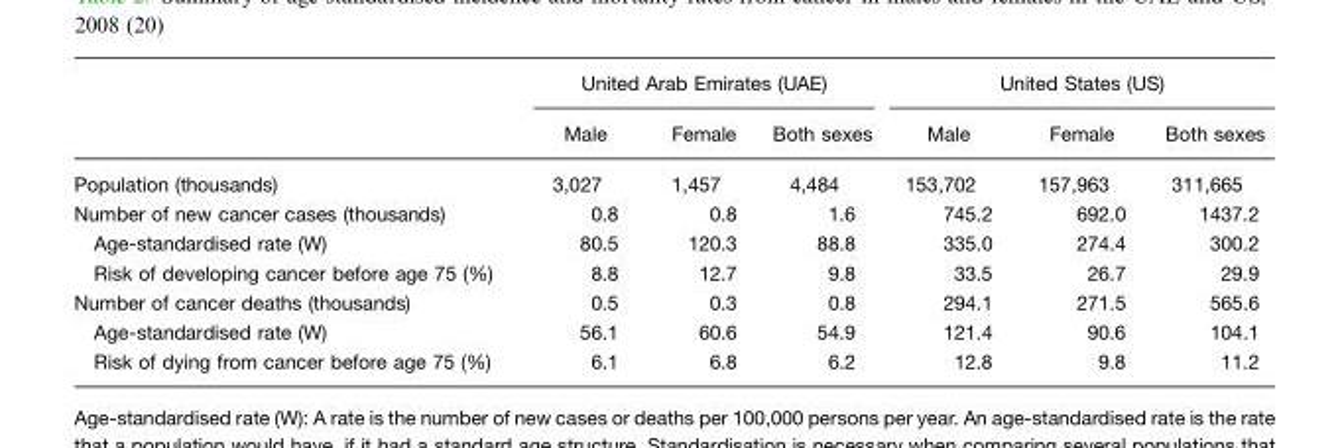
<table><thead><tr><td rowspan="2"></td><td colspan="3">United Arab Emirates (UAE)</td><td colspan="3">United States (US)</td></tr><tr><td>Male</td><td>Female</td><td>Both sexes</td><td>Male</td><td>Female</td><td>Both sexes</td></tr></thead><tbody><tr><td>Population (thousands)</td><td>3,027</td><td>1,457</td><td>4,484</td><td>153,702</td><td>157,963</td><td>311,665</td></tr><tr><td>Number of new cancer cases (thousands)</td><td>0.8</td><td>0.8</td><td>1.6</td><td>745.2</td><td>692.0</td><td>1437.2</td></tr><tr><td>Age-standardised rate (W)</td><td>80.5</td><td>120.3</td><td>88.8</td><td>335.0</td><td>274.4</td><td>300.2</td></tr><tr><td>Risk of developing cancer before age 75 (%)</td><td>8.8</td><td>12.7</td><td>9.8</td><td>33.5</td><td>26.7</td><td>29.9</td></tr><tr><td>Number of cancer deaths (thousands)</td><td>0.5</td><td>0.3</td><td>0.8</td><td>294.1</td><td>271.5</td><td>565.6</td></tr><tr><td>Age-standardised rate (W)</td><td>56.1</td><td>60.6</td><td>54.9</td><td>121.4</td><td>90.6</td><td>104.1</td></tr><tr><td>Risk of dying from cancer before age 75 (%)</td><td>6.1</td><td>6.8</td><td>6.2</td><td>12.8</td><td>9.8</td><td>11.2</td></tr></tbody></table>